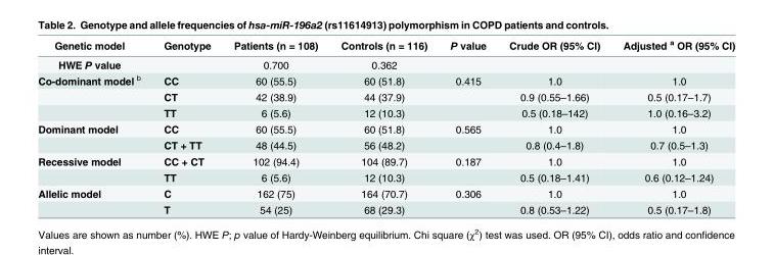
<table><thead><tr><td>Genetic model</td><td>Genotype</td><td>Patients (n = 108)</td><td>Controls (n = 116)</td><td>P value</td><td>Crude OR (95% CI)</td><td>Adjusted <sup>a</sup> OR (95% CI)</td></tr></thead><tbody><tr><td>HWE P value</td><td></td><td>0.700</td><td>0.362</td><td></td><td></td><td></td></tr><tr><td rowspan="3">Co-dominant model <sup>b</sup></td><td>CC</td><td>60 (55.5)</td><td>60 (51.8)</td><td>0.415</td><td>1.0</td><td>1.0</td></tr><tr><td>CT</td><td>42 (38.9)</td><td>44 (37.9)</td><td></td><td>0.9 (0.55–1.66)</td><td>0.5 (0.17–1.7)</td></tr><tr><td>TT</td><td>6 (5.6)</td><td>12 (10.3)</td><td></td><td>0.5 (0.18–142)</td><td>1.0 (0.16–3.2)</td></tr><tr><td rowspan="2">Dominant model</td><td>CC</td><td>60 (55.5)</td><td>60 (51.8)</td><td>0.565</td><td>1.0</td><td>1.0</td></tr><tr><td>CT + TT</td><td>48 (44.5)</td><td>56 (48.2)</td><td></td><td>0.8 (0.4–1.8)</td><td>0.7 (0.5–1.3)</td></tr><tr><td rowspan="2">Recessive model</td><td>CC + CT</td><td>102 (94.4)</td><td>104 (89.7)</td><td>0.187</td><td>1.0</td><td>1.0</td></tr><tr><td>TT</td><td>6 (5.6)</td><td>12 (10.3)</td><td></td><td>0.5 (0.18–1.41)</td><td>0.6 (0.12–1.24)</td></tr><tr><td rowspan="2">Allelic model</td><td>C</td><td>162 (75)</td><td>164 (70.7)</td><td>0.306</td><td>1.0</td><td>1.0</td></tr><tr><td>T</td><td>54 (25)</td><td>68 (29.3)</td><td></td><td>0.8 (0.53–1.22)</td><td>0.5 (0.17–1.8)</td></tr></tbody></table>